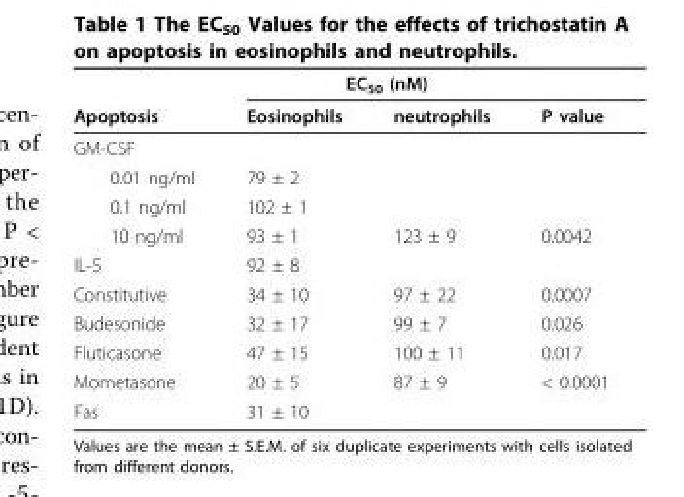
<table><thead><tr><td rowspan="2">Apoptosis</td><td colspan="2">EC<sub>50</sub> (nM)</td><td rowspan="2">P value</td></tr><tr><td>Eosinophils</td><td>neutrophils</td></tr></thead><tbody><tr><td colspan="4">GM-CSF</td></tr><tr><td>0.01 ng/ml</td><td>79 ± 2</td><td></td><td></td></tr><tr><td>0.1 ng/ml</td><td>102 ± 1</td><td></td><td></td></tr><tr><td>10 ng/ml</td><td>93 ± 1</td><td>123 ± 9</td><td>0.0042</td></tr><tr><td>IL-5</td><td>92 ± 8</td><td></td><td></td></tr><tr><td>Constitutive</td><td>34 ± 10</td><td>97 ± 22</td><td>0.0007</td></tr><tr><td>Budesonide</td><td>32 ± 17</td><td>99 ± 7</td><td>0.026</td></tr><tr><td>Fluticasone</td><td>47 ± 15</td><td>100 ± 11</td><td>0.017</td></tr><tr><td>Mometasone</td><td>20 ± 5</td><td>87 ± 9</td><td>&lt; 0.0001</td></tr><tr><td>Fas</td><td>31 ± 10</td><td></td><td></td></tr></tbody></table>